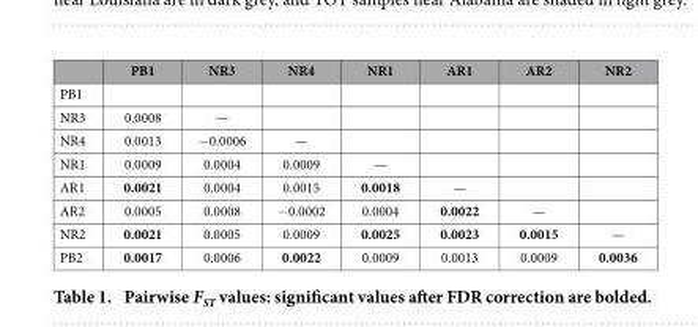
<table><thead><tr><td></td><td>PB1</td><td>NR3</td><td>NR4</td><td>NR1</td><td>AR1</td><td>AR2</td><td>NR2</td></tr></thead><tbody><tr><td colspan="8">PB1</td></tr><tr><td>NR3</td><td>0.0008</td><td>—</td><td></td><td></td><td></td><td></td><td></td></tr><tr><td>NR4</td><td>0.0013</td><td>− 0.0006</td><td>—</td><td></td><td></td><td></td><td></td></tr><tr><td>NR1</td><td>0.0009</td><td>0.0004</td><td>0.0009</td><td>—</td><td></td><td></td><td></td></tr><tr><td>AR1</td><td>0.0021</td><td>0.0004</td><td>0.0015</td><td>0.0018</td><td>—</td><td></td><td></td></tr><tr><td>AR2</td><td>0.0005</td><td>0.0008</td><td>− 0.0002</td><td>0.0004</td><td>0.0022</td><td>—</td><td></td></tr><tr><td>NR2</td><td>0.0021</td><td>0.0005</td><td>0.0009</td><td>0.0025</td><td>0.0023</td><td>0.0015</td><td>—</td></tr><tr><td>PB2</td><td>0.0017</td><td>0.0006</td><td>0.0022</td><td>0.0009</td><td>0.0013</td><td>0.0009</td><td>0.0036</td></tr></tbody></table>